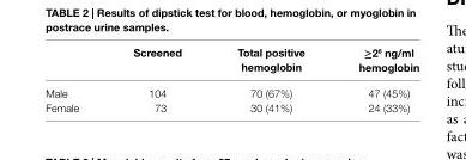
<table><thead><tr><td></td><td>screened</td><td>Total positive hemoglobin</td><td>≥2<sup>6</sup> ng/ml hemoglobin</td></tr></thead><tbody><tr><td>Male</td><td>104</td><td>70 (67%)</td><td>47 (45%)</td></tr><tr><td>Female</td><td>73</td><td>30 (41%)</td><td>24 (33%)</td></tr></tbody></table>